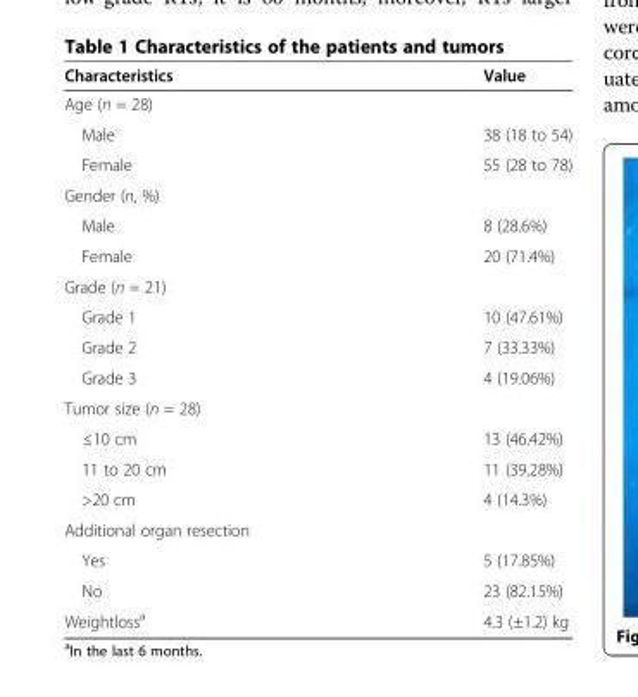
<table><thead><tr><td>Characteristics</td><td>Value</td></tr></thead><tbody><tr><td colspan="2">Age (n = 28)</td></tr><tr><td>Male</td><td>38 (18 to 54)</td></tr><tr><td>Female</td><td>55 (28 to 78)</td></tr><tr><td colspan="2">Gender (n, %)</td></tr><tr><td>Male</td><td>8 (28.6%)</td></tr><tr><td>Female</td><td>20 (71.4%)</td></tr><tr><td colspan="2">Grade (n = 21)</td></tr><tr><td>Grade 1</td><td>10 (47.61%)</td></tr><tr><td>Grade 2</td><td>7 (33.33%)</td></tr><tr><td>Grade 3</td><td>4 (19.06%)</td></tr><tr><td colspan="2">Tumor size (n = 28)</td></tr><tr><td>≤10 cm</td><td>13 (46.42%)</td></tr><tr><td>11 to 20 cm</td><td>11 (39.28%)</td></tr><tr><td>&gt;20 cm</td><td>4 (14.3%)</td></tr><tr><td colspan="2">Additional organ resection</td></tr><tr><td>Yes</td><td>5 (17.85%)</td></tr><tr><td>No</td><td>23 (82.15%)</td></tr><tr><td>Weightloss<sup>a</sup></td><td>4.3 (±1.2) kg</td></tr></tbody></table>